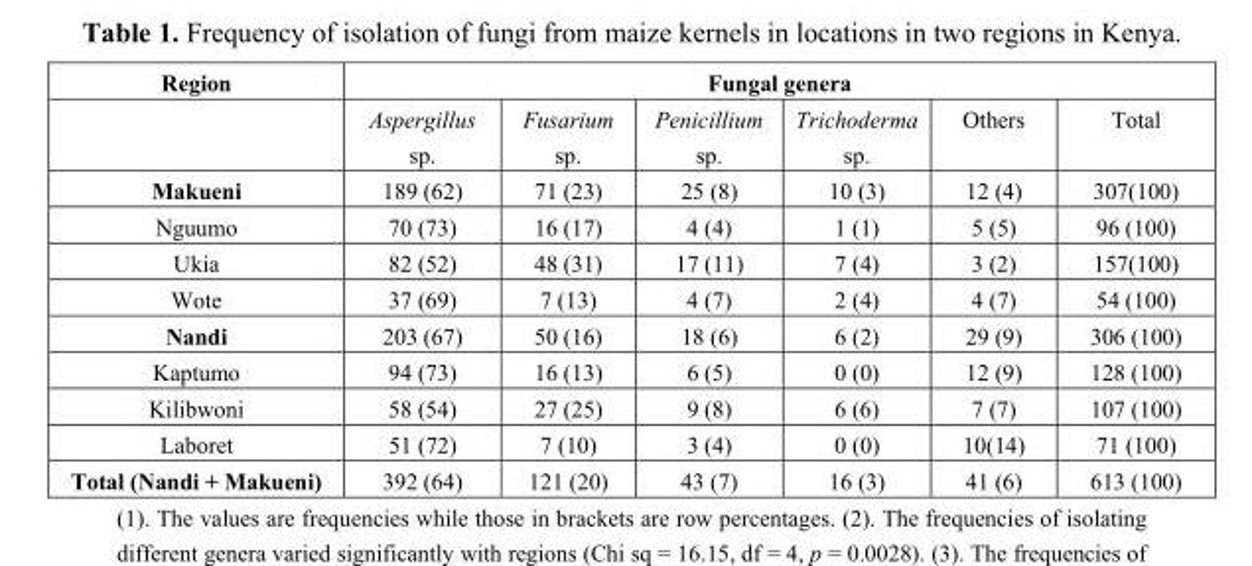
<table><thead><tr><td rowspan="2">Region</td><td colspan="6">Fungal genera</td></tr><tr><td>Aspergillus sp.</td><td>Fusarium sp.</td><td>Penicillium sp.</td><td>Trichoderma sp.</td><td>Others</td><td>Total</td></tr></thead><tbody><tr><td>Makueni</td><td>189 (62)</td><td>71 (23)</td><td>25 (8)</td><td>10 (3)</td><td>12 (4)</td><td>307(100)</td></tr><tr><td>Nguumo</td><td>70 (73)</td><td>16 (17)</td><td>4 (4)</td><td>1 (1)</td><td>5 (5)</td><td>96 (100)</td></tr><tr><td>Ukia</td><td>82 (52)</td><td>48 (31)</td><td>17 (11)</td><td>7 (4)</td><td>3 (2)</td><td>157(100)</td></tr><tr><td>Wote</td><td>37 (69)</td><td>7 (13)</td><td>4 (7)</td><td>2 (4)</td><td>4 (7)</td><td>54 (100)</td></tr><tr><td>Nandi</td><td>203 (67)</td><td>50 (16)</td><td>18 (6)</td><td>6 (2)</td><td>29 (9)</td><td>306 (100)</td></tr><tr><td>Kaptumo</td><td>94 (73)</td><td>16 (13)</td><td>6 (5)</td><td>0 (0)</td><td>12 (9)</td><td>128 (100)</td></tr><tr><td>Kilibwoni</td><td>58 (54)</td><td>27 (25)</td><td>9 (8)</td><td>6 (6)</td><td>7 (7)</td><td>107 (100)</td></tr><tr><td>Laboret</td><td>51 (72)</td><td>7 (10)</td><td>3 (4)</td><td>0 (0)</td><td>10(14)</td><td>71 (100)</td></tr><tr><td>Total (Nandi + Makueni)</td><td>392 (64)</td><td>121 (20)</td><td>43 (7)</td><td>16 (3)</td><td>41 (6)</td><td>613 (100)</td></tr></tbody></table>